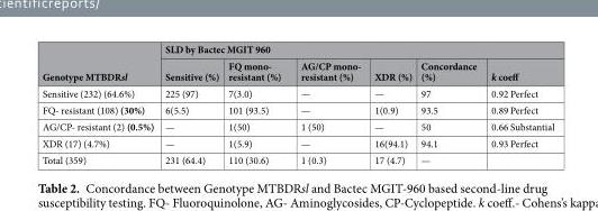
<table><thead><tr><td rowspan="2">Genotype MTBDRsl</td><td colspan="6">SLD by Bactec MGIT 960</td></tr><tr><td>Sensitive (%)</td><td>FQ mono- resistant (%)</td><td>AG/CP mono- resistant (%)</td><td>XDR (%)</td><td>Concordance (%)</td><td>k coeff</td></tr></thead><tbody><tr><td>Sensitive (232) (64.6%)</td><td>225 (97)</td><td>7(3.0)</td><td>—</td><td>—</td><td>97</td><td>0.92 Perfect</td></tr><tr><td>FQ- resistant (108) (30%)</td><td>6(5.5)</td><td>101 (93.5)</td><td>—</td><td>1(0.9)</td><td>93.5</td><td>0.89 Perfect</td></tr><tr><td>AG/CP- resistant (2) (0.5%)</td><td>—</td><td>1(50)</td><td>1 (50)</td><td>—</td><td>50</td><td>0.66 Substantial</td></tr><tr><td>XDR (17) (4.7%)</td><td>—</td><td>1(5.9)</td><td>—</td><td>16(94.1)</td><td>94.1</td><td>0.93 Perfect</td></tr><tr><td>Total (359)</td><td>231 (64.4)</td><td>110 (30.6)</td><td>1 (0.3)</td><td>17 (4.7)</td><td>—</td><td></td></tr></tbody></table>